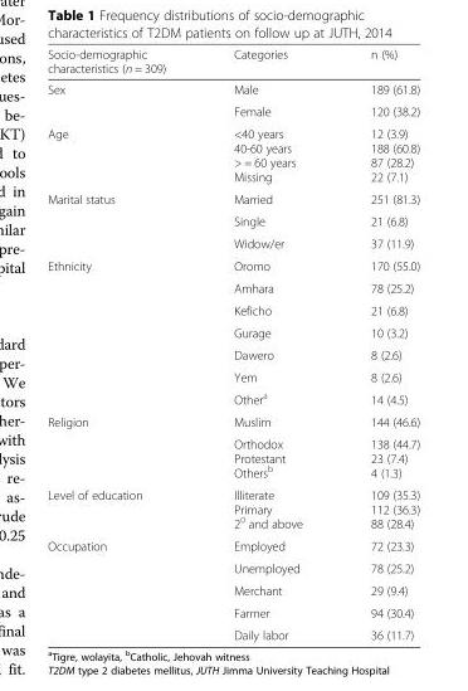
<table><thead><tr><td>Socio-demographic characteristics (n = 309)</td><td>Categories</td><td>n (%)</td></tr></thead><tbody><tr><td rowspan="2">Sex</td><td>Male</td><td>189 (61.8)</td></tr><tr><td>Female</td><td>120 (38.2)</td></tr><tr><td>Age</td><td>&lt;40 years 40-60 years &gt; = 60 years Missing</td><td>12 (3.9) 188 (60.8) 87 (28.2) 22 (7.1)</td></tr><tr><td rowspan="3">Marital status</td><td>Married</td><td>251 (81.3)</td></tr><tr><td>Single</td><td>21 (6.8)</td></tr><tr><td>Widow/er</td><td>37 (11.9)</td></tr><tr><td rowspan="7">Ethnicity</td><td>Oromo</td><td>170 (55.0)</td></tr><tr><td>Amhara</td><td>78 (25.2)</td></tr><tr><td>Keficho</td><td>21 (6.8)</td></tr><tr><td>Gurage</td><td>10 (3.2)</td></tr><tr><td>Dawero</td><td>8 (2.6)</td></tr><tr><td>Yem</td><td>8 (2.6)</td></tr><tr><td>Other<sup>a</sup></td><td>14 (4.5)</td></tr><tr><td rowspan="2">Religion</td><td>Muslim</td><td>144 (46.6)</td></tr><tr><td>Orthodox Protestant Others<sup>b</sup></td><td>138 (44.7) 23 (7.4) 4 (1.3)</td></tr><tr><td>Level of education</td><td>Illiterate Primary 2<sup>0</sup> and above</td><td>109 (35.3) 112 (36.3) 88 (28.4)</td></tr><tr><td rowspan="5">Occupation</td><td>Employed</td><td>72 (23.3)</td></tr><tr><td>Unemployed</td><td>78 (25.2)</td></tr><tr><td>Merchant</td><td>29 (9.4)</td></tr><tr><td>Farmer</td><td>94 (30.4)</td></tr><tr><td>Daily labor</td><td>36 (11.7)</td></tr></tbody></table>